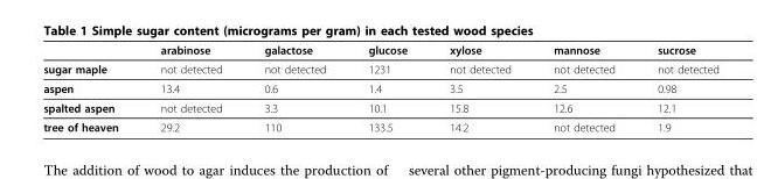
<table><thead><tr><td></td><td>arabinose</td><td>galactose</td><td>glucose</td><td>xylose</td><td>mannose</td><td>sucrose</td></tr></thead><tbody><tr><td>sugar maple</td><td>not detected</td><td>not detected</td><td>1231</td><td>not detected</td><td>not detected</td><td>not detected</td></tr><tr><td>aspen</td><td>13.4</td><td>0.6</td><td>1.4</td><td>3.5</td><td>2.5</td><td>0.98</td></tr><tr><td>spalted aspen</td><td>not detected</td><td>3.3</td><td>10.1</td><td>15.8</td><td>12.6</td><td>12.1</td></tr><tr><td>tree of heaven</td><td>29.2</td><td>110</td><td>133.5</td><td>14.2</td><td>not detected</td><td>1.9</td></tr></tbody></table>